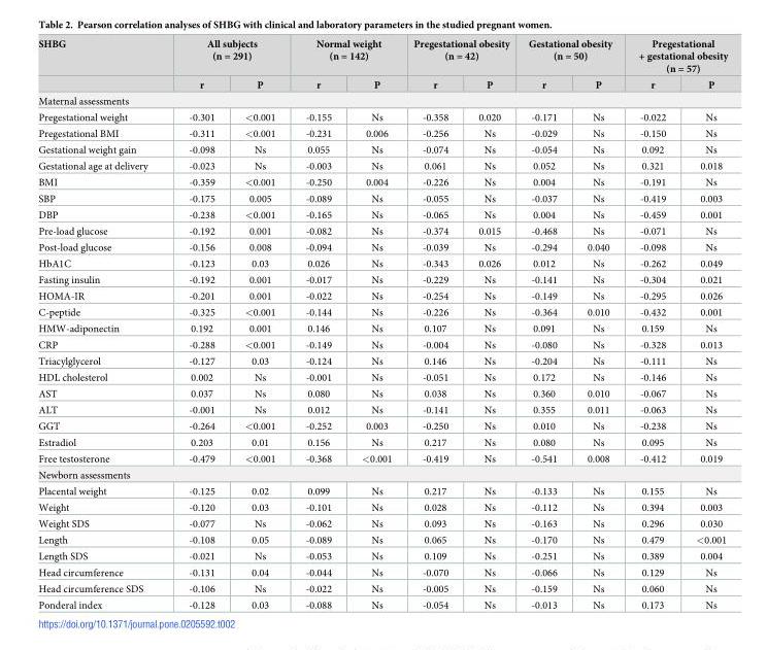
<table><thead><tr><td rowspan="2">SHBG</td><td colspan="2">All subjects (n = 291)</td><td colspan="2">Normal weight (n = 142)</td><td colspan="2">Pregestational obesity (n = 42)</td><td colspan="2">Gestational obesity (n = 50)</td><td colspan="2">Pregestational + gestational obesity (n = 57)</td></tr><tr><td>r</td><td>P</td><td>r</td><td>P</td><td>r</td><td>P</td><td>r</td><td>P</td><td>r</td><td>P</td></tr></thead><tbody><tr><td colspan="11">Maternal assessments</td></tr><tr><td>Pregestational weight</td><td>-0.301</td><td>&lt;0.001</td><td>-0.155</td><td>Ns</td><td>-0.358</td><td>0.020</td><td>-0.171</td><td>Ns</td><td>-0.022</td><td>Ns</td></tr><tr><td>Pregestational BMI</td><td>-0.311</td><td>&lt;0.001</td><td>-0.231</td><td>0.006</td><td>-0.256</td><td>Ns</td><td>-0.029</td><td>Ns</td><td>-0.150</td><td>Ns</td></tr><tr><td>Gestational weight gain</td><td>-0.098</td><td>Ns</td><td>0.055</td><td>Ns</td><td>-0.074</td><td>Ns</td><td>-0.054</td><td>Ns</td><td>0.092</td><td>Ns</td></tr><tr><td>Gestational age at delivery</td><td>-0.023</td><td>Ns</td><td>-0.003</td><td>Ns</td><td>0.061</td><td>Ns</td><td>0.052</td><td>Ns</td><td>0.321</td><td>0.018</td></tr><tr><td>BMI</td><td>-0.359</td><td>&lt;0.001</td><td>-0.250</td><td>0.004</td><td>-0.226</td><td>Ns</td><td>0.004</td><td>Ns</td><td>-0.191</td><td>Ns</td></tr><tr><td>SBP</td><td>-0.175</td><td>0.005</td><td>-0.089</td><td>Ns</td><td>-0.055</td><td>Ns</td><td>-0.037</td><td>Ns</td><td>-0.419</td><td>0.003</td></tr><tr><td>DBP</td><td>-0.238</td><td>&lt;0.001</td><td>-0.165</td><td>Ns</td><td>-0.065</td><td>Ns</td><td>0.004</td><td>Ns</td><td>-0.459</td><td>0.001</td></tr><tr><td>Pre-load glucose</td><td>-0.192</td><td>0.001</td><td>-0.082</td><td>Ns</td><td>-0.374</td><td>0.015</td><td>-0.468</td><td>Ns</td><td>-0.071</td><td>Ns</td></tr><tr><td>Post-load glucose</td><td>-0.156</td><td>0.008</td><td>-0.094</td><td>Ns</td><td>-0.039</td><td>Ns</td><td>-0.294</td><td>0.040</td><td>-0.098</td><td>Ns</td></tr><tr><td>HbA1C</td><td>-0.123</td><td>0.03</td><td>0.026</td><td>Ns</td><td>-0.343</td><td>0.026</td><td>0.012</td><td>Ns</td><td>-0.262</td><td>0.049</td></tr><tr><td>Fasting insulin</td><td>-0.192</td><td>0.001</td><td>-0.017</td><td>Ns</td><td>-0.229</td><td>Ns</td><td>-0.141</td><td>Ns</td><td>-0.304</td><td>0.021</td></tr><tr><td>HOMA-IR</td><td>-0.201</td><td>0.001</td><td>-0.022</td><td>Ns</td><td>-0.254</td><td>Ns</td><td>-0.149</td><td>Ns</td><td>-0.295</td><td>0.026</td></tr><tr><td>C-peptide</td><td>-0.325</td><td>&lt;0.001</td><td>-0.144</td><td>Ns</td><td>-0.226</td><td>Ns</td><td>-0.364</td><td>0.010</td><td>-0.432</td><td>0.001</td></tr><tr><td>HMW-adiponectin</td><td>0.192</td><td>0.001</td><td>0.146</td><td>Ns</td><td>0.107</td><td>Ns</td><td>0.091</td><td>Ns</td><td>0.159</td><td>Ns</td></tr><tr><td>CRP</td><td>-0.288</td><td>&lt;0.001</td><td>-0.149</td><td>Ns</td><td>-0.004</td><td>Ns</td><td>-0.080</td><td>Ns</td><td>-0.328</td><td>0.013</td></tr><tr><td>Triacylglycerol</td><td>-0.127</td><td>0.03</td><td>-0.124</td><td>Ns</td><td>0.146</td><td>Ns</td><td>-0.204</td><td>Ns</td><td>-0.111</td><td>Ns</td></tr><tr><td>HDL cholesterol</td><td>0.002</td><td>Ns</td><td>-0.001</td><td>Ns</td><td>-0.051</td><td>Ns</td><td>0.172</td><td>Ns</td><td>-0.146</td><td>Ns</td></tr><tr><td>AST</td><td>0.037</td><td>Ns</td><td>0.080</td><td>Ns</td><td>0.038</td><td>Ns</td><td>0.360</td><td>0.010</td><td>-0.067</td><td>Ns</td></tr><tr><td>ALT</td><td>-0.001</td><td>Ns</td><td>0.012</td><td>Ns</td><td>-0.141</td><td>Ns</td><td>0.355</td><td>0.011</td><td>-0.063</td><td>Ns</td></tr><tr><td>GGT</td><td>-0.264</td><td>&lt;0.001</td><td>-0.252</td><td>0.003</td><td>-0.250</td><td>Ns</td><td>0.010</td><td>Ns</td><td>-0.238</td><td>Ns</td></tr><tr><td>Estradiol</td><td>0.203</td><td>0.01</td><td>0.156</td><td>Ns</td><td>0.217</td><td>Ns</td><td>0.080</td><td>Ns</td><td>0.095</td><td>Ns</td></tr><tr><td>Free testosterone</td><td>-0.479</td><td>&lt;0.001</td><td>-0.368</td><td>&lt;0.001</td><td>-0.419</td><td>Ns</td><td>-0.541</td><td>0.008</td><td>-0.412</td><td>0.019</td></tr><tr><td colspan="11">Newborn assessments</td></tr><tr><td>Placental weight</td><td>-0.125</td><td>0.02</td><td>0.099</td><td>Ns</td><td>0.217</td><td>Ns</td><td>-0.133</td><td>Ns</td><td>0.155</td><td>Ns</td></tr><tr><td>Weight</td><td>-0.120</td><td>0.03</td><td>-0.101</td><td>Ns</td><td>0.028</td><td>Ns</td><td>-0.112</td><td>Ns</td><td>0.394</td><td>0.003</td></tr><tr><td>Weight SDS</td><td>-0.077</td><td>Ns</td><td>-0.062</td><td>Ns</td><td>0.093</td><td>Ns</td><td>-0.163</td><td>Ns</td><td>0.296</td><td>0.030</td></tr><tr><td>Length</td><td>-0.108</td><td>0.05</td><td>-0.089</td><td>Ns</td><td>0.065</td><td>Ns</td><td>-0.170</td><td>Ns</td><td>0.479</td><td>&lt;0.001</td></tr><tr><td>Length SDS</td><td>-0.021</td><td>Ns</td><td>-0.053</td><td>Ns</td><td>0.109</td><td>Ns</td><td>-0.251</td><td>Ns</td><td>0.389</td><td>0.004</td></tr><tr><td>Head circumference</td><td>-0.131</td><td>0.04</td><td>-0.044</td><td>Ns</td><td>-0.070</td><td>Ns</td><td>-0.066</td><td>Ns</td><td>0.129</td><td>Ns</td></tr><tr><td>Head circumference SDS</td><td>-0.106</td><td>Ns</td><td>-0.022</td><td>Ns</td><td>-0.005</td><td>Ns</td><td>-0.159</td><td>Ns</td><td>0.060</td><td>Ns</td></tr><tr><td>Ponderal index</td><td>-0.128</td><td>0.03</td><td>-0.088</td><td>Ns</td><td>-0.054</td><td>Ns</td><td>-0.013</td><td>Ns</td><td>0.173</td><td>Ns</td></tr></tbody></table>